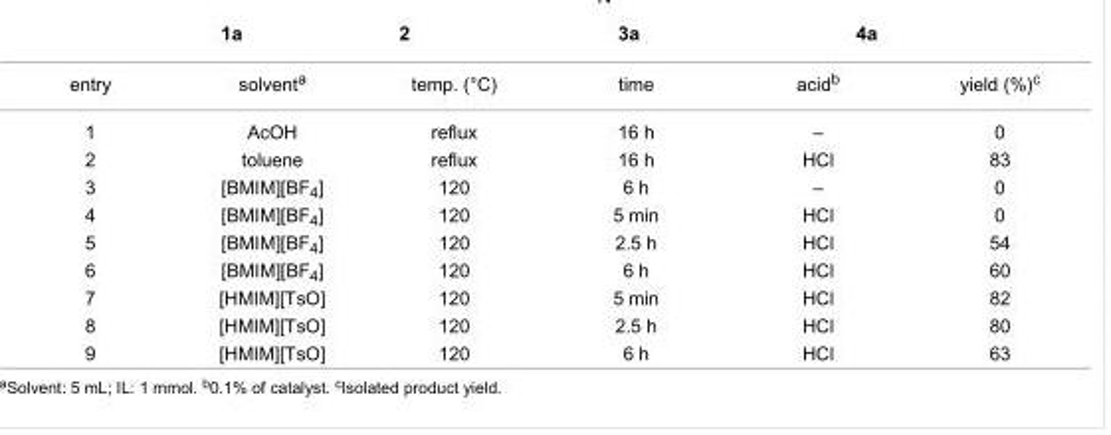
<table><tbody><tr><td>entry</td><td>solvent<sup>a</sup></td><td>temp. (°C)</td><td>time</td><td>acid<sup>b</sup></td><td>yield (%)<sup>c</sup></td></tr><tr><td>1</td><td>AcOH</td><td>reflux</td><td>16 h</td><td>–</td><td>0</td></tr><tr><td>2</td><td>toluene</td><td>reflux</td><td>16 h</td><td>HCl</td><td>83</td></tr><tr><td>3</td><td>[BMIM][BF<sub>4</sub>]</td><td>120</td><td>6 h</td><td>–</td><td>0</td></tr><tr><td>4</td><td>[BMIM][BF<sub>4</sub>]</td><td>120</td><td>5 min</td><td>HCl</td><td>0</td></tr><tr><td>5</td><td>[BMIM][BF<sub>4</sub>]</td><td>120</td><td>2.5 h</td><td>HCl</td><td>54</td></tr><tr><td>6</td><td>[BMIM][BF<sub>4</sub>]</td><td>120</td><td>6 h</td><td>HCl</td><td>60</td></tr><tr><td>7</td><td>[HMIM][TsO]</td><td>120</td><td>5 min</td><td>HCl</td><td>82</td></tr><tr><td>8</td><td>[HMIM][TsO]</td><td>120</td><td>2.5 h</td><td>HCl</td><td>80</td></tr><tr><td>9</td><td>[HMIM][TsO]</td><td>120</td><td>6 h</td><td>HCl</td><td>63</td></tr></tbody></table>